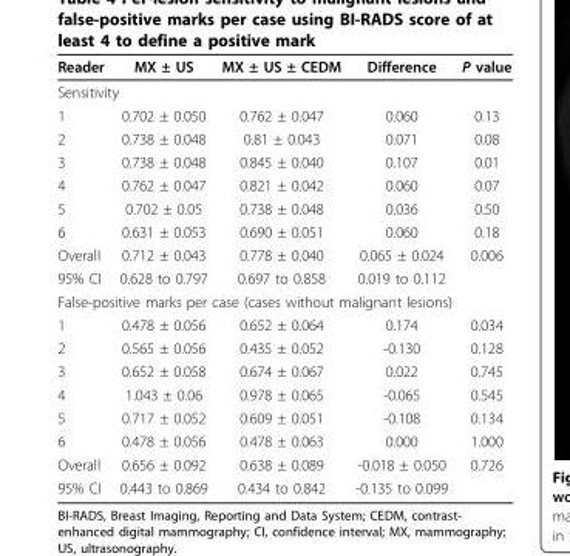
<table><thead><tr><td>Reader</td><td>MX ± US</td><td>MX ± US ± CEDM</td><td>Difference</td><td>P value</td></tr></thead><tbody><tr><td colspan="5">Sensitivity</td></tr><tr><td>1</td><td>0.702 ± 0.050</td><td>0.762 ± 0.047</td><td>0.060</td><td>0.13</td></tr><tr><td>2</td><td>0.738 ± 0.048</td><td>0.81 ± 0.043</td><td>0.071</td><td>0.08</td></tr><tr><td>3</td><td>0.738 ± 0.048</td><td>0.845 ± 0.040</td><td>0.107</td><td>0.01</td></tr><tr><td>4</td><td>0.762 ± 0.047</td><td>0.821 ± 0.042</td><td>0.060</td><td>0.07</td></tr><tr><td>5</td><td>0.702 ± 0.05</td><td>0.738 ± 0.048</td><td>0.036</td><td>0.50</td></tr><tr><td>6</td><td>0.631 ± 0.053</td><td>0.690 ± 0.051</td><td>0.060</td><td>0.18</td></tr><tr><td>Overall</td><td>0.712 ± 0.043</td><td>0.778 ± 0.040</td><td>0.065 ± 0.024</td><td>0.006</td></tr><tr><td>95% CI</td><td>0.628 to 0.797</td><td>0.697 to 0.858</td><td>0.019 to 0.112</td><td></td></tr><tr><td colspan="5">False-positive marks per case (cases without malignant lesions)</td></tr><tr><td>1</td><td>0.478 ± 0.056</td><td>0.652 ± 0.064</td><td>0.174</td><td>0.034</td></tr><tr><td>2</td><td>0.565 ± 0.056</td><td>0.435 ± 0.052</td><td>-0.130</td><td>0.128</td></tr><tr><td>3</td><td>0.652 ± 0.058</td><td>0.674 ± 0.067</td><td>0.022</td><td>0.745</td></tr><tr><td>4</td><td>1.043 ± 0.06</td><td>0.978 ± 0.065</td><td>-0.065</td><td>0.545</td></tr><tr><td>5</td><td>0.717 ± 0.052</td><td>0.609 ± 0.051</td><td>-0.108</td><td>0.134</td></tr><tr><td>6</td><td>0.478 ± 0.056</td><td>0.478 ± 0.063</td><td>0.000</td><td>1.000</td></tr><tr><td>Overall</td><td>0.656 ± 0.092</td><td>0.638 ± 0.089</td><td>-0.018 ± 0.050</td><td>0.726</td></tr><tr><td>95% CI</td><td>0.443 to 0.869</td><td>0.434 to 0.842</td><td>-0.135 to 0.099</td><td></td></tr></tbody></table>